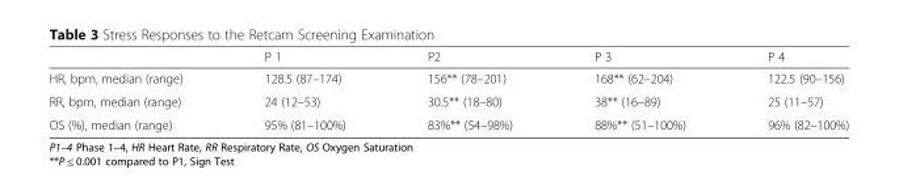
<table><thead><tr><td></td><td>P 1</td><td>P2</td><td>P 3</td><td>P 4</td></tr></thead><tbody><tr><td>HR, bpm, median (range)</td><td>128.5 (87–174)</td><td>156** (78–201)</td><td>168** (62–204)</td><td>122.5 (90–156)</td></tr><tr><td>RR, bpm, median (range)</td><td>24 (12–53)</td><td>30.5** (18–80)</td><td>38** (16–89)</td><td>25 (11–57)</td></tr><tr><td>OS (%), median (range)</td><td>95% (81–100%)</td><td>83%** (54–98%)</td><td>88%** (51–100%)</td><td>96% (82–100%)</td></tr></tbody></table>